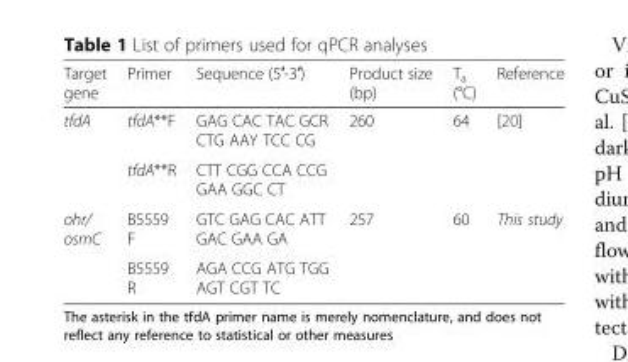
<table><thead><tr><td>Target gene</td><td>Primer</td><td>Sequence (5′-3′)</td><td>Product size (bp)</td><td>T<sub>a</sub> (°C)</td><td>Reference</td></tr></thead><tbody><tr><td rowspan="2">tfdA</td><td>tfdA**F</td><td>GAG CAC TAC GCR CTG AAY TCC CG</td><td>260</td><td>64</td><td>[20]</td></tr><tr><td>tfdA**R</td><td>CTT CGG CCA CCG GAA GGC CT</td><td></td><td></td><td></td></tr><tr><td rowspan="2">ohr/ osmC</td><td>B5559 F</td><td>GTC GAG CAC ATT GAC GAA GA</td><td>257</td><td>60</td><td>This study</td></tr><tr><td>B5559 R</td><td>AGA CCG ATG TGG AGT CGT TC</td><td></td><td></td><td></td></tr></tbody></table>